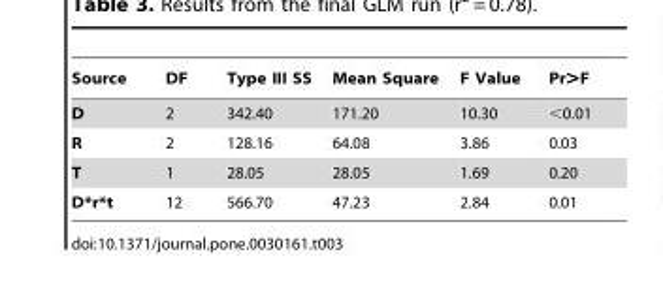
<table><thead><tr><td>Source</td><td>DF</td><td>Type III SS</td><td>Mean Square</td><td>F Value</td><td>Pr&gt;F</td></tr></thead><tbody><tr><td>D</td><td>2</td><td>342.40</td><td>171.20</td><td>10.30</td><td>&lt;0.01</td></tr><tr><td>R</td><td>2</td><td>128.16</td><td>64.08</td><td>3.86</td><td>0.03</td></tr><tr><td>T</td><td>1</td><td>28.05</td><td>28.05</td><td>1.69</td><td>0.20</td></tr><tr><td>D*r*t</td><td>12</td><td>566.70</td><td>47.23</td><td>2.84</td><td>0.01</td></tr></tbody></table>